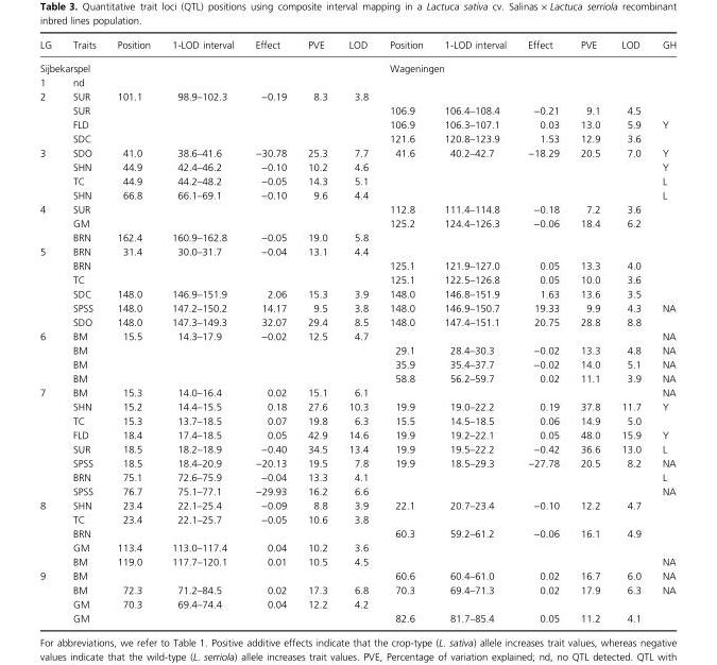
<table><thead><tr><td>LG</td><td>Traits</td><td>Position</td><td>1-LOD interval</td><td>Effect</td><td>PVE</td><td>LOD</td><td>Position</td><td>1-LOD interval</td><td>Effect</td><td>PVE</td><td>LOD</td><td>GH</td></tr></thead><tbody><tr><td colspan="7">Sijbekarspel</td><td colspan="6">Wageningen</td></tr><tr><td>1</td><td>nd</td><td></td><td></td><td></td><td></td><td></td><td></td><td></td><td></td><td></td><td></td><td></td></tr><tr><td rowspan="4">2</td><td>SUR</td><td>101.1</td><td>98.9–102.3</td><td>−0.19</td><td>8.3</td><td>3.8</td><td></td><td></td><td></td><td></td><td></td><td></td></tr><tr><td>SUR</td><td></td><td></td><td></td><td></td><td></td><td>106.9</td><td>106.4–108.4</td><td>−0.21</td><td>9.1</td><td>4.5</td><td></td></tr><tr><td>FLD</td><td></td><td></td><td></td><td></td><td></td><td>106.9</td><td>106.3–107.1</td><td>0.03</td><td>13.0</td><td>5.9</td><td>Y</td></tr><tr><td>SDC</td><td></td><td></td><td></td><td></td><td></td><td>121.6</td><td>120.8–123.9</td><td>1.53</td><td>12.9</td><td>3.6</td><td></td></tr><tr><td rowspan="4">3</td><td>SDO</td><td>41.0</td><td>38.6–41.6</td><td>−30.78</td><td>25.3</td><td>7.7</td><td>41.6</td><td>40.2–42.7</td><td>−18.29</td><td>20.5</td><td>7.0</td><td>Y</td></tr><tr><td>SHN</td><td>44.9</td><td>42.4–46.2</td><td>−0.10</td><td>10.2</td><td>4.6</td><td></td><td></td><td></td><td></td><td></td><td>Y</td></tr><tr><td>TC</td><td>44.9</td><td>44.2–48.2</td><td>−0.05</td><td>14.3</td><td>5.1</td><td></td><td></td><td></td><td></td><td></td><td>L</td></tr><tr><td>SHN</td><td>66.8</td><td>66.1–69.1</td><td>−0.10</td><td>9.6</td><td>4.4</td><td></td><td></td><td></td><td></td><td></td><td>L</td></tr><tr><td rowspan="3">4</td><td>SUR</td><td></td><td></td><td></td><td></td><td></td><td>112.8</td><td>111.4–114.8</td><td>−0.18</td><td>7.2</td><td>3.6</td><td></td></tr><tr><td>GM</td><td></td><td></td><td></td><td></td><td></td><td>125.2</td><td>124.4–126.3</td><td>−0.06</td><td>18.4</td><td>6.2</td><td></td></tr><tr><td>BRN</td><td>162.4</td><td>160.9–162.8</td><td>−0.05</td><td>19.0</td><td>5.8</td><td></td><td></td><td></td><td></td><td></td><td></td></tr><tr><td rowspan="6">5</td><td>BRN</td><td>31.4</td><td>30.0–31.7</td><td>−0.04</td><td>13.1</td><td>4.4</td><td></td><td></td><td></td><td></td><td></td><td></td></tr><tr><td>BRN</td><td></td><td></td><td></td><td></td><td></td><td>125.1</td><td>121.9–127.0</td><td>0.05</td><td>13.3</td><td>4.0</td><td></td></tr><tr><td>TC</td><td></td><td></td><td></td><td></td><td></td><td>125.1</td><td>122.5–126.8</td><td>0.05</td><td>10.0</td><td>3.6</td><td></td></tr><tr><td>SDC</td><td>148.0</td><td>146.9–151.9</td><td>2.06</td><td>15.3</td><td>3.9</td><td>148.0</td><td>146.8–151.9</td><td>1.63</td><td>13.6</td><td>3.5</td><td></td></tr><tr><td>SPSS</td><td>148.0</td><td>147.2–150.2</td><td>14.17</td><td>9.5</td><td>3.8</td><td>148.0</td><td>146.9–150.7</td><td>19.33</td><td>9.9</td><td>4.3</td><td>NA</td></tr><tr><td>SDO</td><td>148.0</td><td>147.3–149.3</td><td>32.07</td><td>29.4</td><td>8.5</td><td>148.0</td><td>147.4–151.1</td><td>20.75</td><td>28.8</td><td>8.8</td><td></td></tr><tr><td rowspan="4">6</td><td>BM</td><td>15.5</td><td>14.3–17.9</td><td>−0.02</td><td>12.5</td><td>4.7</td><td></td><td></td><td></td><td></td><td></td><td>NA</td></tr><tr><td>BM</td><td></td><td></td><td></td><td></td><td></td><td>29.1</td><td>28.4–30.3</td><td>−0.02</td><td>13.3</td><td>4.8</td><td>NA</td></tr><tr><td>BM</td><td></td><td></td><td></td><td></td><td></td><td>35.9</td><td>35.4–37.7</td><td>−0.02</td><td>14.0</td><td>5.1</td><td>NA</td></tr><tr><td>BM</td><td></td><td></td><td></td><td></td><td></td><td>58.8</td><td>56.2–59.7</td><td>0.02</td><td>11.1</td><td>3.9</td><td>NA</td></tr><tr><td rowspan="8">7</td><td>BM</td><td>15.3</td><td>14.0–16.4</td><td>0.02</td><td>15.1</td><td>6.1</td><td></td><td></td><td></td><td></td><td></td><td>NA</td></tr><tr><td>SHN</td><td>15.2</td><td>14.4–15.5</td><td>0.18</td><td>27.6</td><td>10.3</td><td>19.9</td><td>19.0–22.2</td><td>0.19</td><td>37.8</td><td>11.7</td><td>Y</td></tr><tr><td>TC</td><td>15.3</td><td>13.7–18.5</td><td>0.07</td><td>19.8</td><td>6.3</td><td>15.5</td><td>14.5–18.5</td><td>0.06</td><td>14.9</td><td>5.0</td><td></td></tr><tr><td>FLD</td><td>18.4</td><td>17.4–18.5</td><td>0.05</td><td>42.9</td><td>14.6</td><td>19.9</td><td>19.2–22.1</td><td>0.05</td><td>48.0</td><td>15.9</td><td>Y</td></tr><tr><td>SUR</td><td>18.5</td><td>18.2–18.9</td><td>−0.40</td><td>34.5</td><td>13.4</td><td>19.9</td><td>19.5–22.2</td><td>−0.42</td><td>36.6</td><td>13.0</td><td>L</td></tr><tr><td>SPSS</td><td>18.5</td><td>18.4–20.9</td><td>−20.13</td><td>19.5</td><td>7.8</td><td>19.9</td><td>18.5–29.3</td><td>−27.78</td><td>20.5</td><td>8.2</td><td>NA</td></tr><tr><td>BRN</td><td>75.1</td><td>72.6–75.9</td><td>−0.04</td><td>13.3</td><td>4.1</td><td></td><td></td><td></td><td></td><td></td><td>L</td></tr><tr><td>SPSS</td><td>76.7</td><td>75.1–77.1</td><td>−29.93</td><td>16.2</td><td>6.6</td><td></td><td></td><td></td><td></td><td></td><td>NA</td></tr><tr><td rowspan="5">8</td><td>SHN</td><td>23.4</td><td>22.1–25.4</td><td>−0.09</td><td>8.8</td><td>3.9</td><td>22.1</td><td>20.7–23.4</td><td>−0.10</td><td>12.2</td><td>4.7</td><td></td></tr><tr><td>TC</td><td>23.4</td><td>22.1–25.7</td><td>−0.05</td><td>10.6</td><td>3.8</td><td></td><td></td><td></td><td></td><td></td><td></td></tr><tr><td>BRN</td><td></td><td></td><td></td><td></td><td></td><td>60.3</td><td>59.2–61.2</td><td>−0.06</td><td>16.1</td><td>4.9</td><td></td></tr><tr><td>GM</td><td>113.4</td><td>113.0–117.4</td><td>0.04</td><td>10.2</td><td>3.6</td><td></td><td></td><td></td><td></td><td></td><td></td></tr><tr><td>BM</td><td>119.0</td><td>117.7–120.1</td><td>0.01</td><td>10.5</td><td>4.5</td><td></td><td></td><td></td><td></td><td></td><td>NA</td></tr><tr><td rowspan="4">9</td><td>BM</td><td></td><td></td><td></td><td></td><td></td><td>60.6</td><td>60.4–61.0</td><td>0.02</td><td>16.7</td><td>6.0</td><td>NA</td></tr><tr><td>BM</td><td>72.3</td><td>71.2–84.5</td><td>0.02</td><td>17.3</td><td>6.8</td><td>70.3</td><td>69.4–71.3</td><td>0.02</td><td>17.9</td><td>6.3</td><td>NA</td></tr><tr><td>GM</td><td>70.3</td><td>69.4–74.4</td><td>0.04</td><td>12.2</td><td>4.2</td><td></td><td></td><td></td><td></td><td></td><td></td></tr><tr><td>GM</td><td></td><td></td><td></td><td></td><td></td><td>82.6</td><td>81.7–85.4</td><td>0.05</td><td>11.2</td><td>4.1</td><td></td></tr></tbody></table>